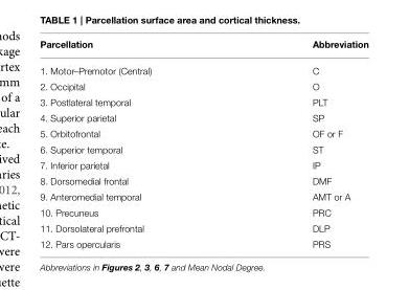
<table><thead><tr><td>Parcellation</td><td>Abbreviation</td></tr></thead><tbody><tr><td>1. Motor–Premotor (Central)</td><td>C</td></tr><tr><td>2. Occipital</td><td>O</td></tr><tr><td>3. Postlateral temporal</td><td>PLT</td></tr><tr><td>4. Superior parietal</td><td>SP</td></tr><tr><td>5. Orbitofrontal</td><td>OF or F</td></tr><tr><td>6. Superior temporal</td><td>ST</td></tr><tr><td>7. Inferior parietal</td><td>IP</td></tr><tr><td>8. Dorsomedial frontal</td><td>DMF</td></tr><tr><td>9. Anteromedial temporal</td><td>AMT or A</td></tr><tr><td>10. Precuneus</td><td>PRC</td></tr><tr><td>11. Dorsolateral prefrontal</td><td>DLP</td></tr><tr><td>12. Pars opercularis</td><td>PRS</td></tr></tbody></table>